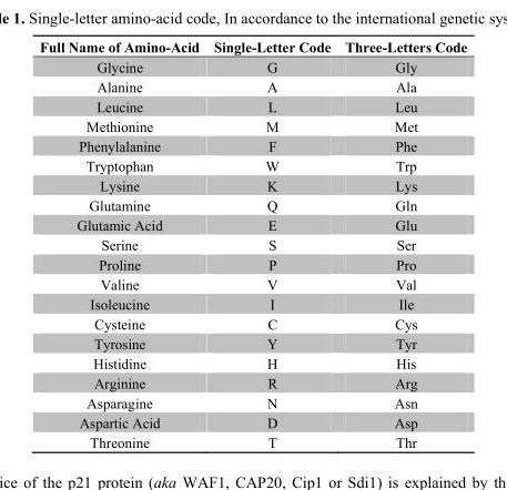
<table><thead><tr><td>Full Name of Amino-Acid</td><td>Single-Letter Code</td><td>Three-Letters Code</td></tr></thead><tbody><tr><td>Glycine</td><td>G</td><td>Gly</td></tr><tr><td>Alanine</td><td>A</td><td>Ala</td></tr><tr><td>Leucine</td><td>L</td><td>Leu</td></tr><tr><td>Methionine</td><td>M</td><td>Met</td></tr><tr><td>Phenylalanine</td><td>F</td><td>Phe</td></tr><tr><td>Tryptophan</td><td>W</td><td>Trp</td></tr><tr><td>Lysine</td><td>K</td><td>Lys</td></tr><tr><td>Glutamine</td><td>Q</td><td>Gln</td></tr><tr><td>Glutamic Acid</td><td>E</td><td>Glu</td></tr><tr><td>Serine</td><td>S</td><td>Ser</td></tr><tr><td>Proline</td><td>P</td><td>Pro</td></tr><tr><td>Valine</td><td>V</td><td>Val</td></tr><tr><td>Isoleucine</td><td>I</td><td>Ile</td></tr><tr><td>Cysteine</td><td>C</td><td>Cys</td></tr><tr><td>Tyrosine</td><td>Y</td><td>Tyr</td></tr><tr><td>Histidine</td><td>H</td><td>His</td></tr><tr><td>Arginine</td><td>R</td><td>Arg</td></tr><tr><td>Asparagine</td><td>N</td><td>Asn</td></tr><tr><td>Aspartic Acid</td><td>D</td><td>Asp</td></tr><tr><td>Threonine</td><td>T</td><td>Thr</td></tr></tbody></table>